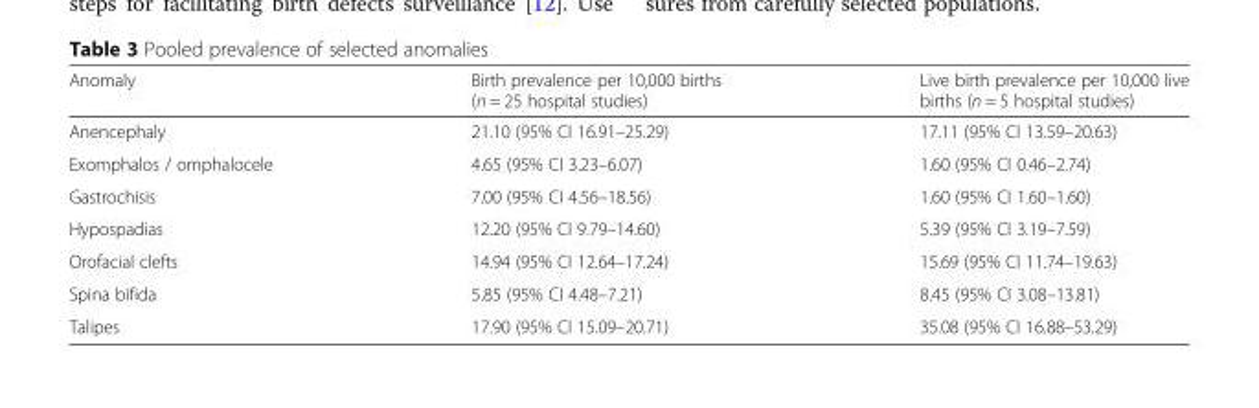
<table><thead><tr><td>Anomaly</td><td>Birth prevalence per 10,000 births (n = 25 hospital studies)</td><td>Live birth prevalence per 10,000 live births (n = 5 hospital studies)</td></tr></thead><tbody><tr><td>Anencephaly</td><td>21.10 (95% CI 16.91–25.29)</td><td>17.11 (95% CI 13.59–20.63)</td></tr><tr><td>Exomphalos / omphalocele</td><td>4.65 (95% CI 3.23–6.07)</td><td>1.60 (95% CI 0.46–2.74)</td></tr><tr><td>Gastrochisis</td><td>7.00 (95% CI 4.56–18.56)</td><td>1.60 (95% CI 1.60–1.60)</td></tr><tr><td>Hypospadias</td><td>12.20 (95% CI 9.79–14.60)</td><td>5.39 (95% CI 3.19–7.59)</td></tr><tr><td>Orofacial clefts</td><td>14.94 (95% CI 12.64–17.24)</td><td>15.69 (95% CI 11.74–19.63)</td></tr><tr><td>Spina bifida</td><td>5.85 (95% CI 4.48–7.21)</td><td>8.45 (95% CI 3.08–13.81)</td></tr><tr><td>Talipes</td><td>17.90 (95% CI 15.09–20.71)</td><td>35.08 (95% CI 16.88–53.29)</td></tr></tbody></table>